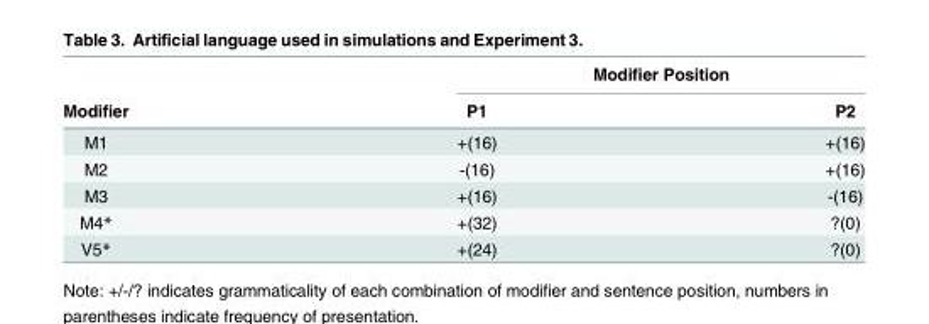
<table><thead><tr><td rowspan="2">Modifier</td><td colspan="2">Modifier Position</td></tr><tr><td>P1</td><td>P2</td></tr></thead><tbody><tr><td>M1</td><td>+(16)</td><td>+(16)</td></tr><tr><td>M2</td><td>-(16)</td><td>+(16)</td></tr><tr><td>M3</td><td>+(16)</td><td>-(16)</td></tr><tr><td>M4*</td><td>+(32)</td><td>?(0)</td></tr><tr><td>V5*</td><td>+(24)</td><td>?(0)</td></tr></tbody></table>